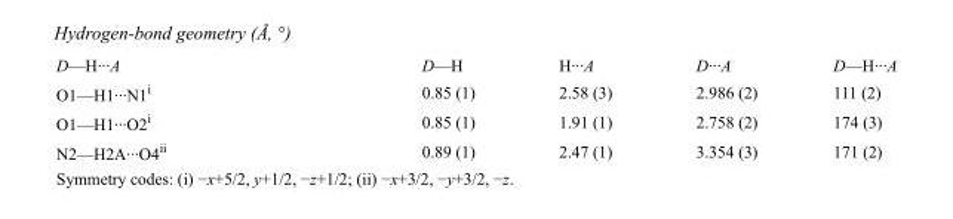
<table><tbody><tr><td>D—H···A</td><td>D—H</td><td>H···A</td><td>D···A</td><td>D—H···A</td></tr><tr><td>O1—H1···N1<sup>i</sup></td><td>0.85 (1)</td><td>2.58 (3)</td><td>2.986 (2)</td><td>111 (2)</td></tr><tr><td>O1—H1···O2<sup>i</sup></td><td>0.85 (1)</td><td>1.91 (1)</td><td>2.758 (2)</td><td>174 (3)</td></tr><tr><td>N2—H2A···O4<sup>ii</sup></td><td>0.89 (1)</td><td>2.47 (1)</td><td>3.354 (3)</td><td>171 (2)</td></tr></tbody></table>